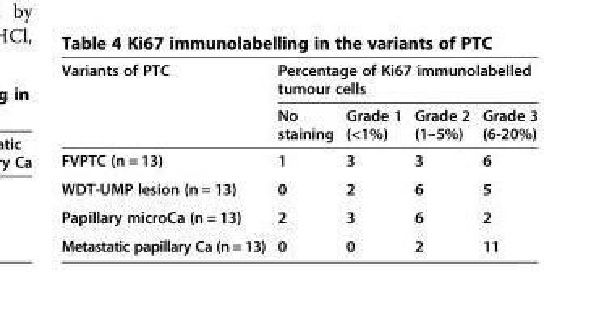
<table><thead><tr><td rowspan="2">Variants of PTC</td><td colspan="4">Percentage of Ki67 immunolabelled tumour cells</td></tr><tr><td>No staining</td><td>Grade 1 (&lt;1%)</td><td>Grade 2 (1–5%)</td><td>Grade 3 (6-20%)</td></tr></thead><tbody><tr><td>FVPTC (n = 13)</td><td>1</td><td>3</td><td>3</td><td>6</td></tr><tr><td>WDT-UMP lesion (n = 13)</td><td>0</td><td>2</td><td>6</td><td>5</td></tr><tr><td>Papillary microCa (n = 13)</td><td>2</td><td>3</td><td>6</td><td>2</td></tr><tr><td>Metastatic papillary Ca (n = 13)</td><td>0</td><td>0</td><td>2</td><td>11</td></tr></tbody></table>